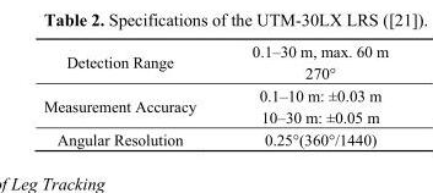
<table><tbody><tr><td rowspan="2">Detection Range</td><td>0.1–30 m, max. 60 m</td></tr><tr><td>270°</td></tr><tr><td rowspan="2">Measurement Accuracy</td><td>0.1–10 m: ±0.03 m</td></tr><tr><td>10–30 m: ±0.05 m</td></tr><tr><td>Angular Resolution</td><td>0.25°(360°/1440)</td></tr></tbody></table>